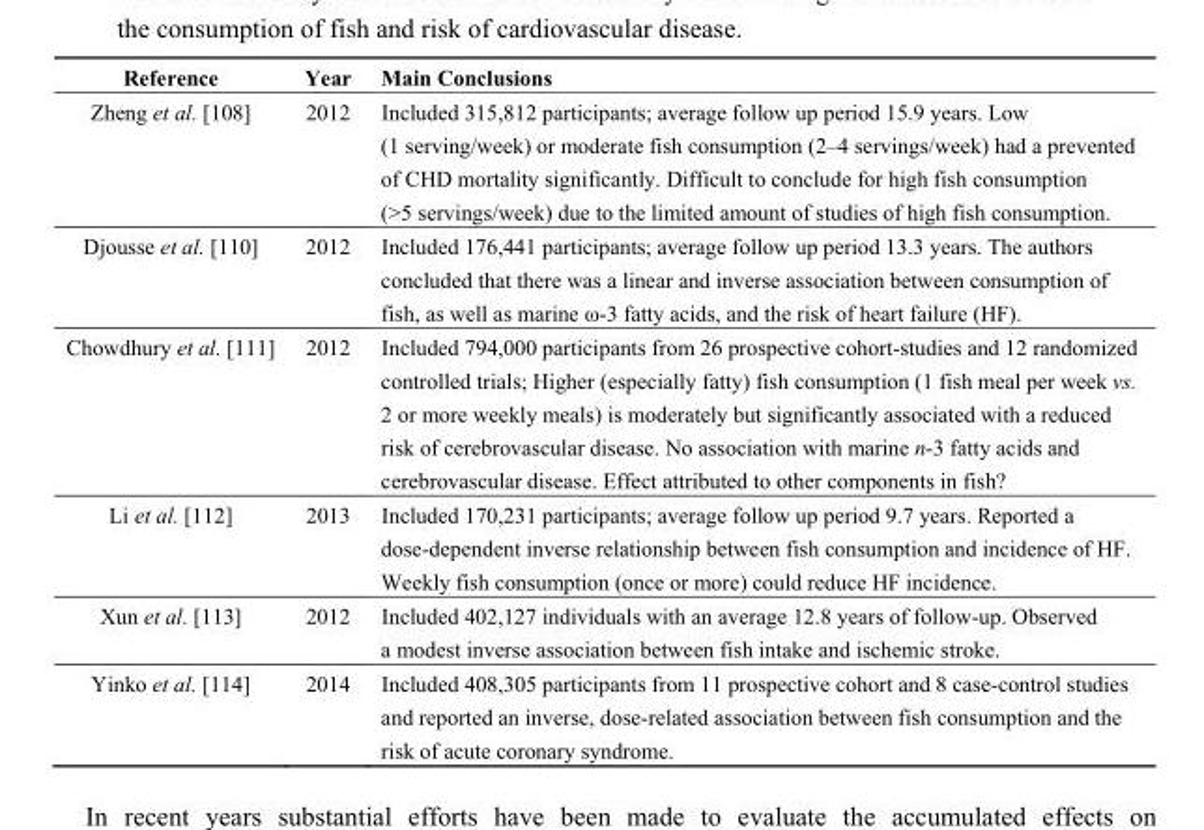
<table><thead><tr><td>Reference</td><td>Year</td><td>Main Conclusions</td></tr></thead><tbody><tr><td>Zheng et al. [108]</td><td>2012</td><td>Included 315,812 participants; average follow up period 15.9 years. Low (1 serving/week) or moderate fish consumption (2–4 servings/week) had a prevented of CHD mortality significantly. Difficult to conclude for high fish consumption (&gt;5 servings/week) due to the limited amount of studies of high fish consumption.</td></tr><tr><td>Djousse et al. [110]</td><td>2012</td><td>Included 176,441 participants; average follow up period 13.3 years. The authors concluded that there was a linear and inverse association between consumption of fish, as well as marine ω-3 fatty acids, and the risk of heart failure (HF).</td></tr><tr><td>Chowdhury et al. [111]</td><td>2012</td><td>Included 794,000 participants from 26 prospective cohort-studies and 12 randomized controlled trials; Higher (especially fatty) fish consumption (1 fish meal per week vs. 2 or more weekly meals) is moderately but significantly associated with a reduced risk of cerebrovascular disease. No association with marine n-3 fatty acids and cerebrovascular disease. Effect attributed to other components in fish?</td></tr><tr><td>Li et al. [112]</td><td>2013</td><td>Included 170,231 participants; average follow up period 9.7 years. Reported a dose-dependent inverse relationship between fish consumption and incidence of HF. Weekly fish consumption (once or more) could reduce HF incidence.</td></tr><tr><td>Xun et al. [113]</td><td>2012</td><td>Included 402,127 individuals with an average 12.8 years of follow-up. Observed a modest inverse association between fish intake and ischemic stroke.</td></tr><tr><td>Yinko et al. [114]</td><td>2014</td><td>Included 408,305 participants from 11 prospective cohort and 8 case-control studies and reported an inverse, dose-related association between fish consumption and the risk of acute coronary syndrome.</td></tr></tbody></table>